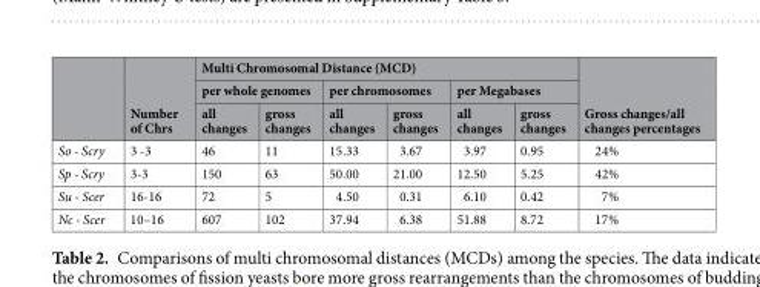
<table><thead><tr><td rowspan="3"></td><td rowspan="3">Number of Chrs</td><td colspan="6">Multi Chromosomal Distance (MCD)</td><td rowspan="3">Gross changes/all changes percentages</td></tr><tr><td colspan="2">per whole genomes</td><td colspan="2">per chromosomes</td><td colspan="2">per Megabases</td></tr><tr><td>all changes</td><td>gross changes</td><td>all changes</td><td>gross changes</td><td>all changes</td><td>gross changes</td></tr></thead><tbody><tr><td>So - Scry</td><td>3 -3</td><td>46</td><td>11</td><td>15.33</td><td>3.67</td><td>3.97</td><td>0.95</td><td>24%</td></tr><tr><td>Sp - Scry</td><td>3-3</td><td>150</td><td>63</td><td>50.00</td><td>21.00</td><td>12.50</td><td>5.25</td><td>42%</td></tr><tr><td>Su - Scer</td><td>16-16</td><td>72</td><td>5</td><td>4.50</td><td>0.31</td><td>6.10</td><td>0.42</td><td>7%</td></tr><tr><td>Nc - Scer</td><td>10–16</td><td>607</td><td>102</td><td>37.94</td><td>6.38</td><td>51.88</td><td>8.72</td><td>17%</td></tr></tbody></table>